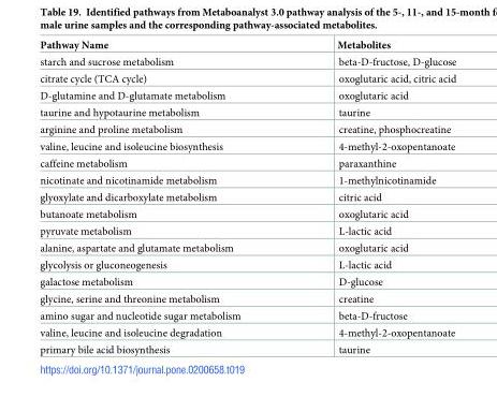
<table><thead><tr><td>Pathway Name</td><td>Metabolites</td></tr></thead><tbody><tr><td>starch and sucrose metabolism</td><td>beta-D-fructose, D-glucose</td></tr><tr><td>citrate cycle (TCA cycle)</td><td>oxoglutaric acid, citric acid</td></tr><tr><td>D-glutamine and D-glutamate metabolism</td><td>oxoglutaric acid</td></tr><tr><td>taurine and hypotaurine metabolism</td><td>taurine</td></tr><tr><td>arginine and proline metabolism</td><td>creatine, phosphocreatine</td></tr><tr><td>valine, leucine and isoleucine biosynthesis</td><td>4-methyl-2-oxopentanoate</td></tr><tr><td>caffeine metabolism</td><td>paraxanthine</td></tr><tr><td>nicotinate and nicotinamide metabolism</td><td>1-methylnicotinamide</td></tr><tr><td>glyoxylate and dicarboxylate metabolism</td><td>citric acid</td></tr><tr><td>butanoate metabolism</td><td>oxoglutaric acid</td></tr><tr><td>pyruvate metabolism</td><td>L-lactic acid</td></tr><tr><td>alanine, aspartate and glutamate metabolism</td><td>oxoglutaric acid</td></tr><tr><td>glycolysis or gluconeogenesis</td><td>L-lactic acid</td></tr><tr><td>galactose metabolism</td><td>D-glucose</td></tr><tr><td>glycine, serine and threonine metabolism</td><td>creatine</td></tr><tr><td>amino sugar and nucleotide sugar metabolism</td><td>beta-D-fructose</td></tr><tr><td>valine, leucine and isoleucine degradation</td><td>4-methyl-2-oxopentanoate</td></tr><tr><td>primary bile acid biosynthesis</td><td>taurine</td></tr></tbody></table>